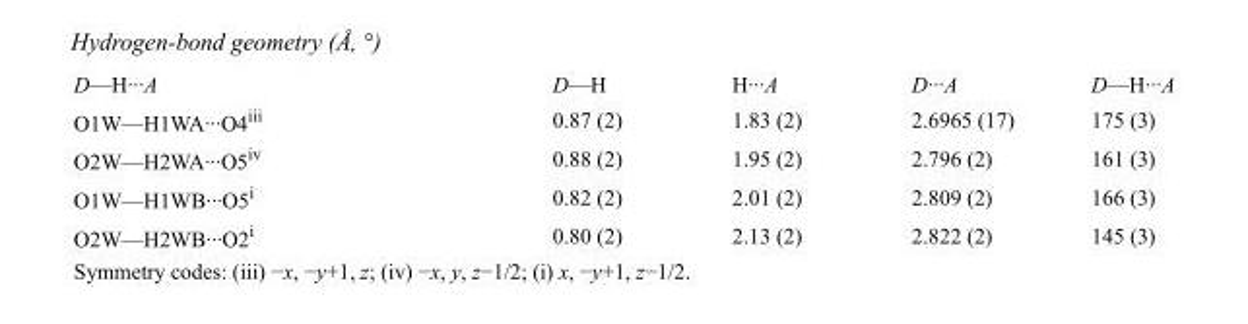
<table><tbody><tr><td>D—H···A</td><td>D—H</td><td>H···A</td><td>D···A</td><td>D—H···A</td></tr><tr><td>O1W—H1WA···O4<sup>iii</sup></td><td>0.87 (2)</td><td>1.83 (2)</td><td>2.6965 (17)</td><td>175 (3)</td></tr><tr><td>O2W—H2WA···O5<sup>iv</sup></td><td>0.88 (2)</td><td>1.95 (2)</td><td>2.796 (2)</td><td>161 (3)</td></tr><tr><td>O1W—H1WB···O5<sup>i</sup></td><td>0.82 (2)</td><td>2.01 (2)</td><td>2.809 (2)</td><td>166 (3)</td></tr><tr><td>O2W—H2WB···O2<sup>i</sup></td><td>0.80 (2)</td><td>2.13 (2)</td><td>2.822 (2)</td><td>145 (3)</td></tr></tbody></table>